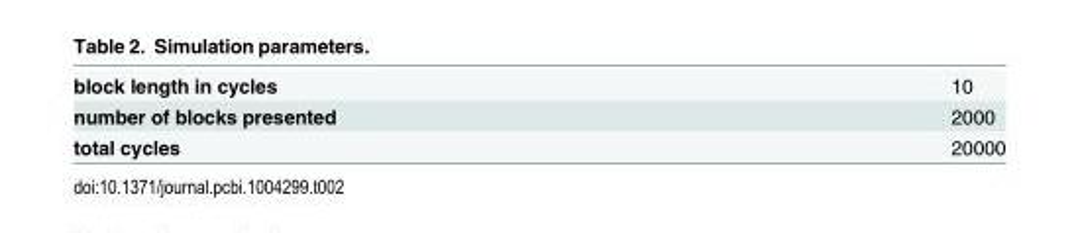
<table><tbody><tr><td>block length in cycles</td><td>10</td></tr><tr><td>number of blocks presented</td><td>2000</td></tr><tr><td>total cycles</td><td>20000</td></tr></tbody></table>